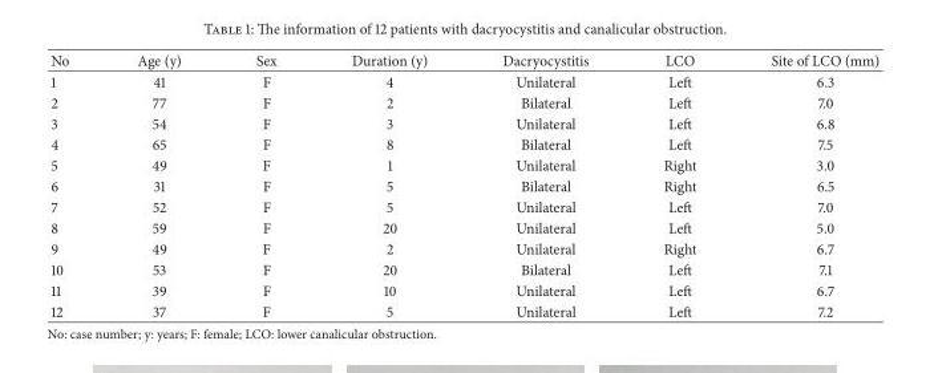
<table><thead><tr><td>No</td><td>Age (y)</td><td>Sex</td><td>Duration (y)</td><td>Dacryocystitis</td><td>LCO</td><td>Site of LCO (mm)</td></tr></thead><tbody><tr><td>1</td><td>41</td><td>F</td><td>4</td><td>Unilateral</td><td>Left</td><td>6.3</td></tr><tr><td>2</td><td>77</td><td>F</td><td>2</td><td>Bilateral</td><td>Left</td><td>7.0</td></tr><tr><td>3</td><td>54</td><td>F</td><td>3</td><td>Unilateral</td><td>Left</td><td>6.8</td></tr><tr><td>4</td><td>65</td><td>F</td><td>8</td><td>Bilateral</td><td>Left</td><td>7.5</td></tr><tr><td>5</td><td>49</td><td>F</td><td>1</td><td>Unilateral</td><td>Right</td><td>3.0</td></tr><tr><td>6</td><td>31</td><td>F</td><td>5</td><td>Bilateral</td><td>Right</td><td>6.5</td></tr><tr><td>7</td><td>52</td><td>F</td><td>5</td><td>Unilateral</td><td>Left</td><td>7.0</td></tr><tr><td>8</td><td>59</td><td>F</td><td>20</td><td>Unilateral</td><td>Left</td><td>5.0</td></tr><tr><td>9</td><td>49</td><td>F</td><td>2</td><td>Unilateral</td><td>Right</td><td>6.7</td></tr><tr><td>10</td><td>53</td><td>F</td><td>20</td><td>Bilateral</td><td>Left</td><td>7.1</td></tr><tr><td>11</td><td>39</td><td>F</td><td>10</td><td>Unilateral</td><td>Left</td><td>6.7</td></tr><tr><td>12</td><td>37</td><td>F</td><td>5</td><td>Unilateral</td><td>Left</td><td>7.2</td></tr></tbody></table>